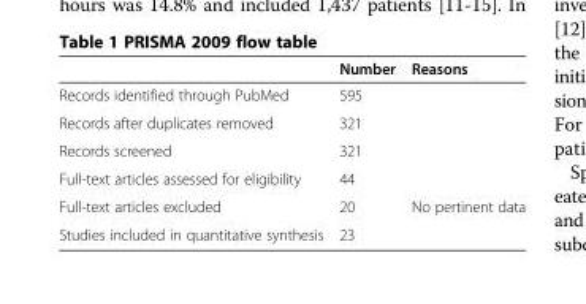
<table><thead><tr><td></td><td>Number</td><td>Reasons</td></tr></thead><tbody><tr><td>Records identified through PubMed</td><td>595</td><td></td></tr><tr><td>Records after duplicates removed</td><td>321</td><td></td></tr><tr><td>Records screened</td><td>321</td><td></td></tr><tr><td>Full-text articles assessed for eligibility</td><td>44</td><td></td></tr><tr><td>Full-text articles excluded</td><td>20</td><td>No pertinent data</td></tr><tr><td>Studies included in quantitative synthesis</td><td>23</td><td></td></tr></tbody></table>